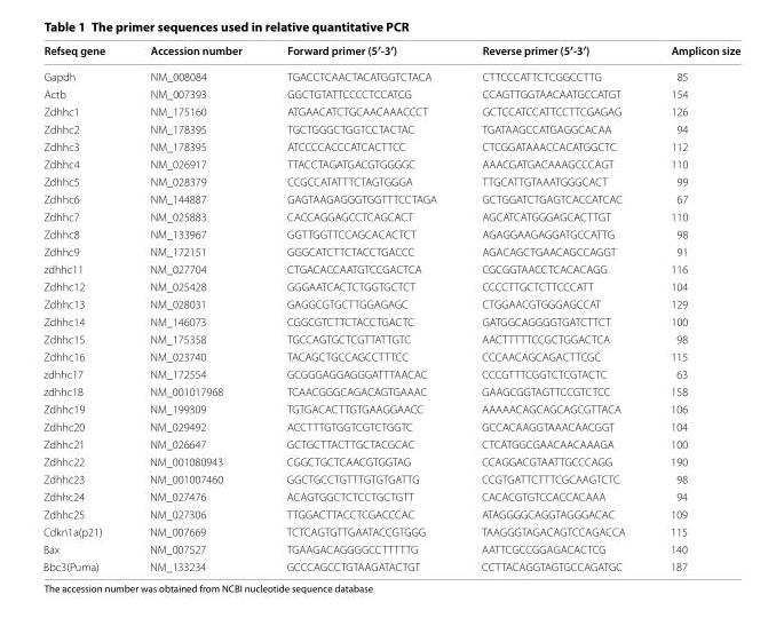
<table><thead><tr><td>Refseq gene</td><td>Accession number</td><td>Forward primer (5′‑3′)</td><td>Reverse primer (5′‑3′)</td><td>Amplicon size</td></tr></thead><tbody><tr><td>Gapdh</td><td>NM_008084</td><td>TGACCTCAACTACATGGTCTACA</td><td>CTTCCCATTCTCGGCCTTG</td><td>85</td></tr><tr><td>Actb</td><td>NM_007393</td><td>GGCTGTATTCCCCTCCATCG</td><td>CCAGTTGGTAACAATGCCATGT</td><td>154</td></tr><tr><td>Zdhhc1</td><td>NM_175160</td><td>ATGAACATCTGCAACAAACCCT</td><td>GCTCCATCCATTCCTTCGAGAG</td><td>126</td></tr><tr><td>Zdhhc2</td><td>NM_178395</td><td>TGCTGGGCTGGTCCTACTAC</td><td>TGATAAGCCATGAGGCACAA</td><td>94</td></tr><tr><td>Zdhhc3</td><td>NM_178395</td><td>ATCCCCACCCATCACTTCC</td><td>CTCGGATAAACCACATGGCTC</td><td>112</td></tr><tr><td>Zdhhc4</td><td>NM_026917</td><td>TTACCTAGATGACGTGGGGC</td><td>AAACGATGACAAAGCCCAGT</td><td>110</td></tr><tr><td>Zdhhc5</td><td>NM_028379</td><td>CCGCCATATTTCTAGTGGGA</td><td>TTGCATTGTAAATGGGCACT</td><td>99</td></tr><tr><td>Zdhhc6</td><td>NM_144887</td><td>GAGTAAGAGGGTGGTTTCCTAGA</td><td>GCTGGATCTGAGTCACCATCAC</td><td>67</td></tr><tr><td>Zdhhc7</td><td>NM_025883</td><td>CACCAGGAGCCTCAGCACT</td><td>AGCATCATGGGAGCACTTGT</td><td>110</td></tr><tr><td>Zdhhc8</td><td>NM_133967</td><td>GGTTGGTTCCAGCACACTCT</td><td>AGAGGAAGAGGATGCCATTG</td><td>98</td></tr><tr><td>Zdhhc9</td><td>NM_172151</td><td>GGGCATCTTCTACCTGACCC</td><td>AGACAGCTGAACAGCCAGGT</td><td>91</td></tr><tr><td>zdhhc11</td><td>NM_027704</td><td>CTGACACCAATGTCCGACTCA</td><td>CGCGGTAACCTCACACAGG</td><td>116</td></tr><tr><td>Zdhhc12</td><td>NM_025428</td><td>GGGAATCACTCTGGTGCTCT</td><td>CCCCTTGCTCTTCCCATT</td><td>104</td></tr><tr><td>Zdhhc13</td><td>NM_028031</td><td>GAGGCGTGCTTGGAGAGC</td><td>CTGGAACGTGGGAGCCAT</td><td>129</td></tr><tr><td>Zdhhc14</td><td>NM_146073</td><td>CGGCGTCTTCTACCTGACTC</td><td>GATGGCAGGGGTGATCTTCT</td><td>100</td></tr><tr><td>Zdhhc15</td><td>NM_175358</td><td>TGCCAGTGCTCGTTATTGTC</td><td>AACTTTTTCCGCTGGACTCA</td><td>98</td></tr><tr><td>Zdhhc16</td><td>NM_023740</td><td>TACAGCTGCCAGCCTTTCC</td><td>CCCAACAGCAGACTTCGC</td><td>115</td></tr><tr><td>zdhhc17</td><td>NM_172554</td><td>GCGGGAGGAGGGATTTAACAC</td><td>CCCGTTTCGGTCTCGTACTC</td><td>63</td></tr><tr><td>zdhhc18</td><td>NM_001017968</td><td>TCAACGGGCAGACAGTGAAAC</td><td>GAAGCGGTAGTTCCGTCTCC</td><td>158</td></tr><tr><td>Zdhhc19</td><td>NM_199309</td><td>TGTGACACTTGTGAAGGAACC</td><td>AAAAACAGCAGCAGCGTTACA</td><td>106</td></tr><tr><td>Zdhhc20</td><td>NM_029492</td><td>ACCTTTGTGGTCGTCTGGTC</td><td>GCCACAAGGTAAACAACGGT</td><td>104</td></tr><tr><td>Zdhhc21</td><td>NM_026647</td><td>GCTGCTTACTTGCTACGCAC</td><td>CTCATGGCGAACAACAAAGA</td><td>100</td></tr><tr><td>Zdhhc22</td><td>NM_001080943</td><td>CGGCTGCTCAACGTGGTAG</td><td>CCAGGACGTAATTGCCCAGG</td><td>190</td></tr><tr><td>Zdhhc23</td><td>NM_001007460</td><td>GGCTGCCTGTTTGTGTGATTG</td><td>CCGTGATTCTTTCGCAAGTCTC</td><td>98</td></tr><tr><td>Zdhhc24</td><td>NM_027476</td><td>ACAGTGGCTCTCCTGCTGTT</td><td>CACACGTGTCCACCACAAA</td><td>94</td></tr><tr><td>Zdhhc25</td><td>NM_027306</td><td>TTGGACTTACCTCGACCCAC</td><td>ATAGGGGCAGGTAGGGACAC</td><td>109</td></tr><tr><td>Cdkn1a(p21)</td><td>NM_007669</td><td>TCTCAGTGTTGAATACCGTGGG</td><td>TAAGGGTAGACAGTCCAGACCA</td><td>115</td></tr><tr><td>Bax</td><td>NM_007527</td><td>TGAAGACAGGGGCCTTTTTG</td><td>AATTCGCCGGAGACACTCG</td><td>140</td></tr><tr><td>Bbc3(Puma)</td><td>NM_133234</td><td>GCCCAGCCTGTAAGATACTGT</td><td>CCTTACAGGTAGTGCCAGATGC</td><td>187</td></tr></tbody></table>